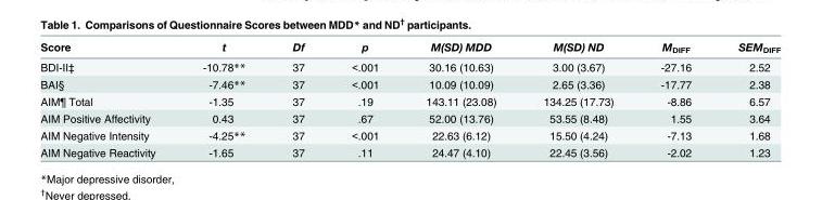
<table><thead><tr><td>Score</td><td>t</td><td>Df</td><td>p</td><td>M(SD) MDD</td><td>M(SD) ND</td><td>M<sub>DIFF</sub></td><td>SEM<sub>DIFF</sub></td></tr></thead><tbody><tr><td>BDI-II‡</td><td>-10.78**</td><td>37</td><td>&lt;.001</td><td>30.16 (10.63)</td><td>3.00 (3.67)</td><td>-27.16</td><td>2.52</td></tr><tr><td>BAI§</td><td>-7.46**</td><td>37</td><td>&lt;.001</td><td>10.09 (10.09)</td><td>2.65 (3.36)</td><td>-17.77</td><td>2.38</td></tr><tr><td>AIM¶ Total</td><td>-1.35</td><td>37</td><td>.19</td><td>143.11 (23.08)</td><td>134.25 (17.73)</td><td>-8.86</td><td>6.57</td></tr><tr><td>AIM Positive Affectivity</td><td>0.43</td><td>37</td><td>.67</td><td>52.00 (13.76)</td><td>53.55 (8.48)</td><td>1.55</td><td>3.64</td></tr><tr><td>AIM Negative Intensity</td><td>-4.25**</td><td>37</td><td>&lt;.001</td><td>22.63 (6.12)</td><td>15.50 (4.24)</td><td>-7.13</td><td>1.68</td></tr><tr><td>AIM Negative Reactivity</td><td>-1.65</td><td>37</td><td>.11</td><td>24.47 (4.10)</td><td>22.45 (3.56)</td><td>-2.02</td><td>1.23</td></tr></tbody></table>